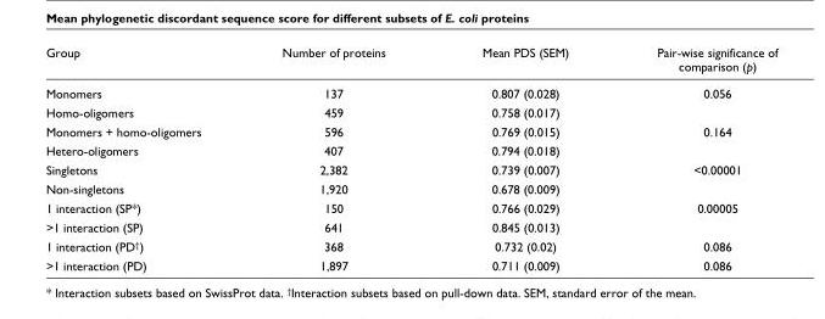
<table><thead><tr><td>Group</td><td>Number of proteins</td><td>Mean PDS (SEM)</td><td>Pair-wise significance of comparison (p)</td></tr></thead><tbody><tr><td>Monomers</td><td>137</td><td>0.807 (0.028)</td><td>0.056</td></tr><tr><td>Homo-oligomers</td><td>459</td><td>0.758 (0.017)</td><td></td></tr><tr><td>Monomers + homo-oligomers</td><td>596</td><td>0.769 (0.015)</td><td>0.164</td></tr><tr><td>Hetero-oligomers</td><td>407</td><td>0.794 (0.018)</td><td></td></tr><tr><td>Singletons</td><td>2,382</td><td>0.739 (0.007)</td><td>&lt;0.00001</td></tr><tr><td>Non-singletons</td><td>1,920</td><td>0.678 (0.009)</td><td></td></tr><tr><td>1 interaction (SP*)</td><td>150</td><td>0.766 (0.029)</td><td>0.00005</td></tr><tr><td>&gt;1 interaction (SP)</td><td>641</td><td>0.845 (0.013)</td><td></td></tr><tr><td>1 interaction (PD<sup>†</sup>)</td><td>368</td><td>0.732 (0.02)</td><td>0.086</td></tr><tr><td>&gt;1 interaction (PD)</td><td>1,897</td><td>0.711 (0.009)</td><td>0.086</td></tr></tbody></table>